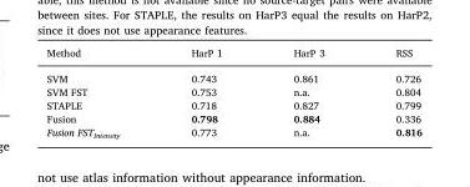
<table><thead><tr><td>Method</td><td>HarP 1</td><td>HarP 3</td><td>RSS</td></tr></thead><tbody><tr><td>SVM</td><td>0.743</td><td>0.861</td><td>0.726</td></tr><tr><td>SVM FST</td><td>0.753</td><td>n.a.</td><td>0.804</td></tr><tr><td>STAPLE</td><td>0.718</td><td>0.827</td><td>0.799</td></tr><tr><td>Fusion</td><td>0.798</td><td>0.884</td><td>0.336</td></tr><tr><td>Fusion FST<sub>Intensity</sub></td><td>0.773</td><td>n.a.</td><td>0.816</td></tr></tbody></table>